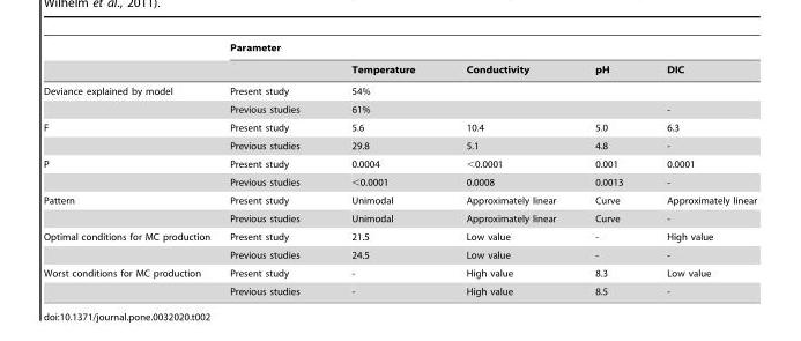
<table><thead><tr><td rowspan="2"></td><td colspan="5">Parameter</td></tr><tr><td></td><td>Temperature</td><td>Conductivity</td><td>pH</td><td>DIC</td></tr></thead><tbody><tr><td rowspan="2">Deviance explained by model</td><td>Present study</td><td colspan="4">54%</td></tr><tr><td>Previous studies</td><td colspan="3">61%</td><td>-</td></tr><tr><td rowspan="2">F</td><td>Present study</td><td>5.6</td><td>10.4</td><td>5.0</td><td>6.3</td></tr><tr><td>Previous studies</td><td>29.8</td><td>5.1</td><td>4.8</td><td>-</td></tr><tr><td rowspan="2">P</td><td>Present study</td><td>0.0004</td><td>&lt;0.0001</td><td>0.001</td><td>0.0001</td></tr><tr><td>Previous studies</td><td>&lt;0.0001</td><td>0.0008</td><td>0.0013</td><td>-</td></tr><tr><td rowspan="2">Pattern</td><td>Present study</td><td>Unimodal</td><td>Approximately linear</td><td>Curve</td><td>Approximately linear</td></tr><tr><td>Previous studies</td><td>Unimodal</td><td>Approximately linear</td><td>Curve</td><td>-</td></tr><tr><td rowspan="2">Optimal conditions for MC production</td><td>Present study</td><td>21.5</td><td>Low value</td><td>-</td><td>High value</td></tr><tr><td>Previous studies</td><td>24.5</td><td>Low value</td><td>-</td><td>-</td></tr><tr><td rowspan="2">Worst conditions for MC production</td><td>Present study</td><td>-</td><td>High value</td><td>8.3</td><td>Low value</td></tr><tr><td>Previous studies</td><td>-</td><td>High value</td><td>8.5</td><td>-</td></tr></tbody></table>